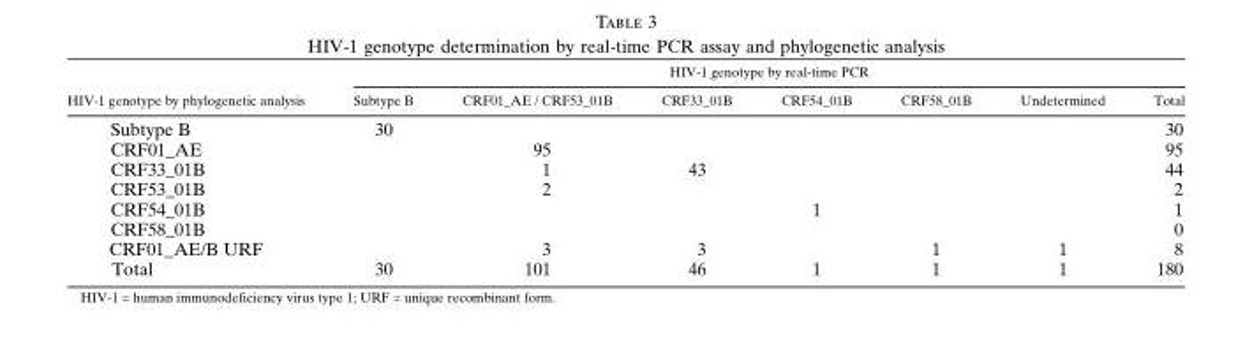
<table><thead><tr><td rowspan="2">HIV-1 genotype by phylogenetic analysis</td><td colspan="7">HIV-1 genotype by real-time PCR</td></tr><tr><td>Subtype B</td><td>CRF01_AE / CRF53_01B</td><td>CRF33_01B</td><td>CRF54_01B</td><td>CRF58_01B</td><td>Undetermined</td><td>Total</td></tr></thead><tbody><tr><td>Subtype B</td><td>30</td><td></td><td></td><td></td><td></td><td></td><td>30</td></tr><tr><td>CRF01_AE</td><td></td><td>95</td><td></td><td></td><td></td><td></td><td>95</td></tr><tr><td>CRF33_01B</td><td></td><td>1</td><td>43</td><td></td><td></td><td></td><td>44</td></tr><tr><td>CRF53_01B</td><td></td><td>2</td><td></td><td></td><td></td><td></td><td>2</td></tr><tr><td>CRF54_01B</td><td></td><td></td><td></td><td>1</td><td></td><td></td><td>1</td></tr><tr><td>CRF58_01B</td><td></td><td></td><td></td><td></td><td></td><td></td><td>0</td></tr><tr><td>CRF01_AE/B URF</td><td></td><td>3</td><td>3</td><td></td><td>1</td><td>1</td><td>8</td></tr><tr><td>Total</td><td>30</td><td>101</td><td>46</td><td>1</td><td>1</td><td>1</td><td>180</td></tr></tbody></table>